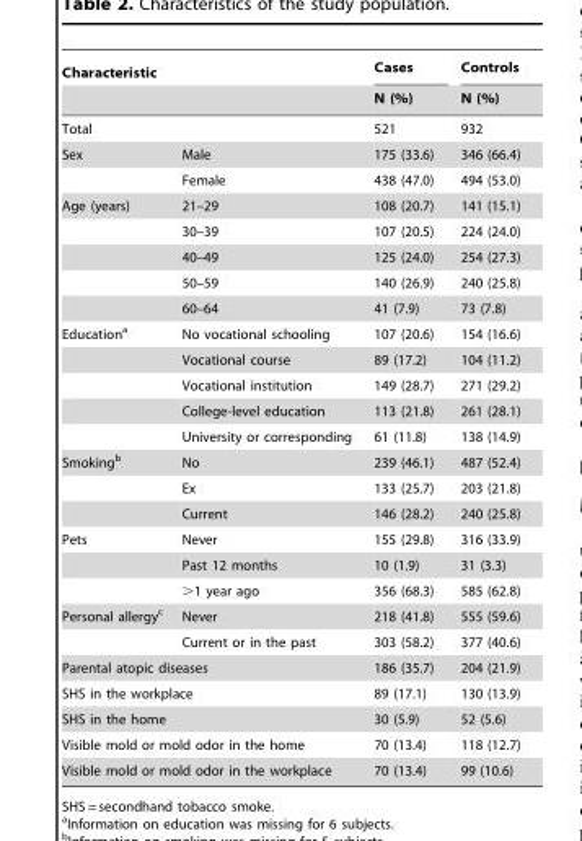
<table><thead><tr><td colspan="2">Characteristic</td><td rowspan="2">Cases N (%)</td><td rowspan="2">Controls N (%)</td></tr><tr><td></td><td></td></tr></thead><tbody><tr><td colspan="2">Total</td><td>521</td><td>932</td></tr><tr><td rowspan="2">Sex</td><td>Male</td><td>175 (33.6)</td><td>346 (66.4)</td></tr><tr><td>Female</td><td>438 (47.0)</td><td>494 (53.0)</td></tr><tr><td rowspan="5">Age (years)</td><td>21–29</td><td>108 (20.7)</td><td>141 (15.1)</td></tr><tr><td>30–39</td><td>107 (20.5)</td><td>224 (24.0)</td></tr><tr><td>40–49</td><td>125 (24.0)</td><td>254 (27.3)</td></tr><tr><td>50–59</td><td>140 (26.9)</td><td>240 (25.8)</td></tr><tr><td>60–64</td><td>41 (7.9)</td><td>73 (7.8)</td></tr><tr><td rowspan="5">Education<sup>a</sup></td><td>No vocational schooling</td><td>107 (20.6)</td><td>154 (16.6)</td></tr><tr><td>Vocational course</td><td>89 (17.2)</td><td>104 (11.2)</td></tr><tr><td>Vocational institution</td><td>149 (28.7)</td><td>271 (29.2)</td></tr><tr><td>College-level education</td><td>113 (21.8)</td><td>261 (28.1)</td></tr><tr><td>University or corresponding</td><td>61 (11.8)</td><td>138 (14.9)</td></tr><tr><td rowspan="3">Smoking<sup>b</sup></td><td>No</td><td>239 (46.1)</td><td>487 (52.4)</td></tr><tr><td>Ex</td><td>133 (25.7)</td><td>203 (21.8)</td></tr><tr><td>Current</td><td>146 (28.2)</td><td>240 (25.8)</td></tr><tr><td rowspan="3">Pets</td><td>Never</td><td>155 (29.8)</td><td>316 (33.9)</td></tr><tr><td>Past 12 months</td><td>10 (1.9)</td><td>31 (3.3)</td></tr><tr><td>&gt;1 year ago</td><td>356 (68.3)</td><td>585 (62.8)</td></tr><tr><td rowspan="2">Personal allergy<sup>c</sup></td><td>Never</td><td>218 (41.8)</td><td>555 (59.6)</td></tr><tr><td>Current or in the past</td><td>303 (58.2)</td><td>377 (40.6)</td></tr><tr><td colspan="2">Parental atopic diseases</td><td>186 (35.7)</td><td>204 (21.9)</td></tr><tr><td colspan="2">SHS in the workplace</td><td>89 (17.1)</td><td>130 (13.9)</td></tr><tr><td colspan="2">SHS in the home</td><td>30 (5.9)</td><td>52 (5.6)</td></tr><tr><td colspan="2">Visible mold or mold odor in the home</td><td>70 (13.4)</td><td>118 (12.7)</td></tr><tr><td colspan="2">Visible mold or mold odor in the workplace</td><td>70 (13.4)</td><td>99 (10.6)</td></tr></tbody></table>